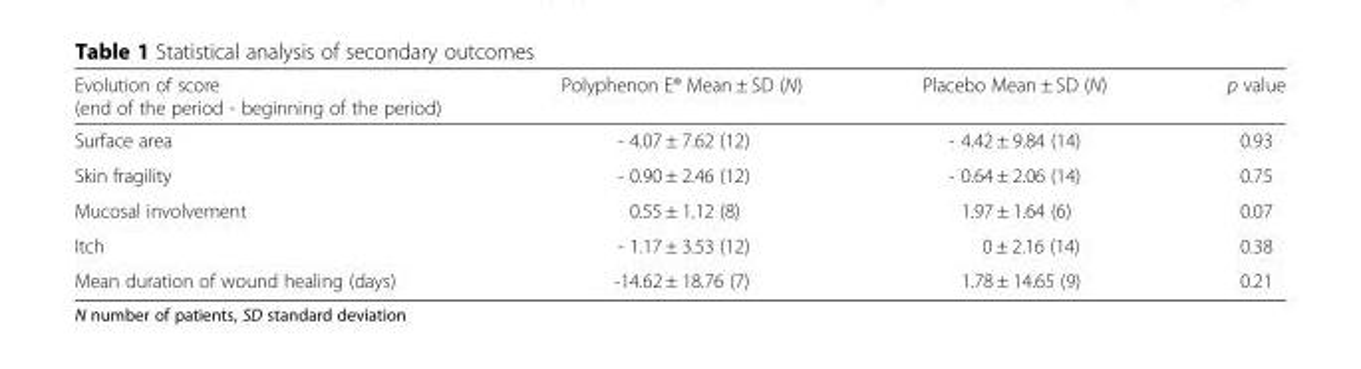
<table><thead><tr><td>Evolution of score (end of the period - beginning of the period)</td><td>Polyphenon E® Mean ± SD (N)</td><td>Placebo Mean ± SD (N)</td><td>p value</td></tr></thead><tbody><tr><td>Surface area</td><td>- 4.07 ± 7.62 (12)</td><td>- 4.42 ± 9.84 (14)</td><td>0.93</td></tr><tr><td>Skin fragility</td><td>- 0.90 ± 2.46 (12)</td><td>- 0.64 ± 2.06 (14)</td><td>0.75</td></tr><tr><td>Mucosal involvement</td><td>0.55 ± 1.12 (8)</td><td>1.97 ± 1.64 (6)</td><td>0.07</td></tr><tr><td>Itch</td><td>- 1.17 ± 3.53 (12)</td><td>0 ± 2.16 (14)</td><td>0.38</td></tr><tr><td>Mean duration of wound healing (days)</td><td>-14.62 ± 18.76 (7)</td><td>1.78 ± 14.65 (9)</td><td>0.21</td></tr></tbody></table>